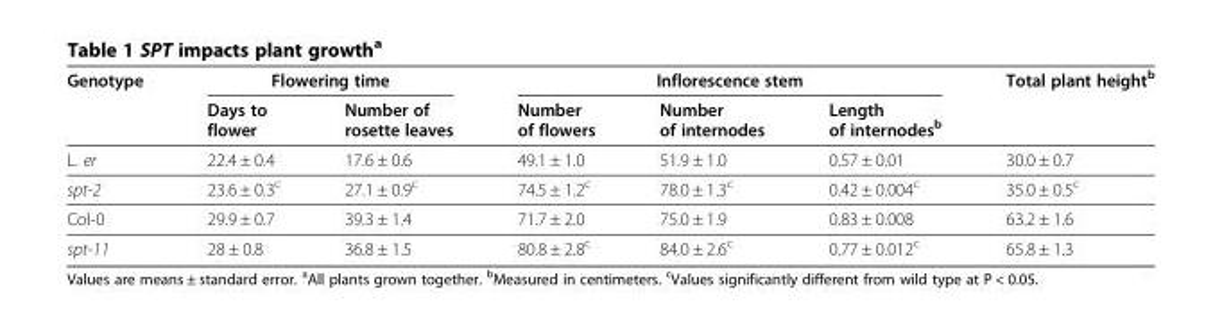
<table><thead><tr><td rowspan="2">Genotype</td><td colspan="2">Flowering time</td><td colspan="3">Inflorescence stem</td><td rowspan="2">Total plant height<sup>b</sup></td></tr><tr><td>Days to flower</td><td>Number of rosette leaves</td><td>Number of flowers</td><td>Number of internodes</td><td>Length of internodes<sup>b</sup></td></tr></thead><tbody><tr><td>L. er</td><td>22.4 ± 0.4</td><td>17.6 ± 0.6</td><td>49.1 ± 1.0</td><td>51.9 ± 1.0</td><td>0.57 ± 0.01</td><td>30.0 ± 0.7</td></tr><tr><td>spt-2</td><td>23.6 ± 0.3<sup>c</sup></td><td>27.1 ± 0.9<sup>c</sup></td><td>74.5 ± 1.2<sup>c</sup></td><td>78.0 ± 1.3<sup>c</sup></td><td>0.42 ± 0.004<sup>c</sup></td><td>35.0 ± 0.5<sup>c</sup></td></tr><tr><td>Col-0</td><td>29.9 ± 0.7</td><td>39.3 ± 1.4</td><td>71.7 ± 2.0</td><td>75.0 ± 1.9</td><td>0.83 ± 0.008</td><td>63.2 ± 1.6</td></tr><tr><td>spt-11</td><td>28 ± 0.8</td><td>36.8 ± 1.5</td><td>80.8 ± 2.8<sup>c</sup></td><td>84.0 ± 2.6<sup>c</sup></td><td>0.77 ± 0.012<sup>c</sup></td><td>65.8 ± 1.3</td></tr></tbody></table>